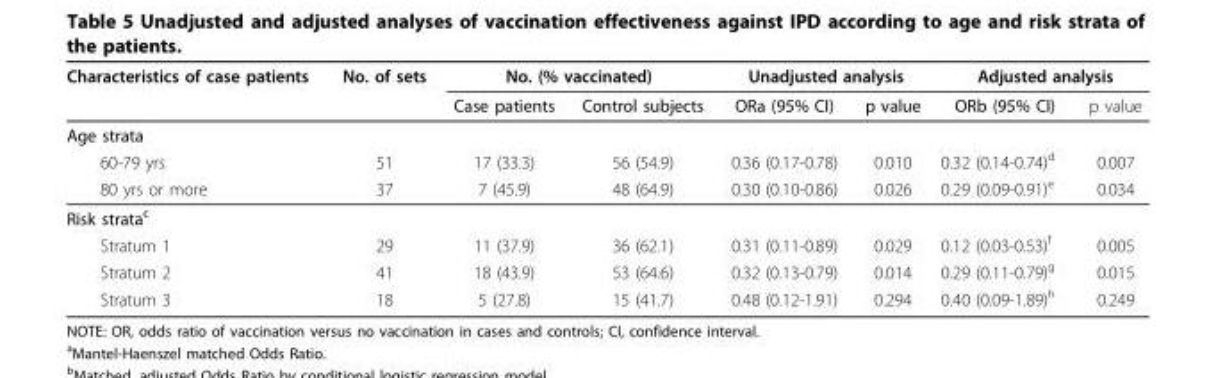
<table><thead><tr><td rowspan="2">Characteristics of case patients</td><td rowspan="2">No. of sets</td><td colspan="2">No. (% vaccinated)</td><td colspan="2">Unadjusted analysis</td><td colspan="2">Adjusted analysis</td></tr><tr><td>Case patients</td><td>Control subjects</td><td>ORa (95% CI)</td><td>p value</td><td>ORb (95% CI)</td><td>p value</td></tr></thead><tbody><tr><td colspan="8">Age strata</td></tr><tr><td>60-79 yrs</td><td>51</td><td>17 (33.3)</td><td>56 (54.9)</td><td>0.36 (0.17-0.78)</td><td>0.010</td><td>0.32 (0.14-0.74)<sup>d</sup></td><td>0.007</td></tr><tr><td>80 yrs or more</td><td>37</td><td>7 (45.9)</td><td>48 (64.9)</td><td>0.30 (0.10-0.86)</td><td>0.026</td><td>0.29 (0.09-0.91)<sup>e</sup></td><td>0.034</td></tr><tr><td colspan="8">Risk strata<sup>c</sup></td></tr><tr><td>Stratum 1</td><td>29</td><td>11 (37.9)</td><td>36 (62.1)</td><td>0.31 (0.11-0.89)</td><td>0.029</td><td>0.12 (0.03-0.53)<sup>f</sup></td><td>0.005</td></tr><tr><td>Stratum 2</td><td>41</td><td>18 (43.9)</td><td>53 (64.6)</td><td>0.32 (0.13-0.79)</td><td>0.014</td><td>0.29 (0.11-0.79)<sup>g</sup></td><td>0.015</td></tr><tr><td>Stratum 3</td><td>18</td><td>5 (27.8)</td><td>15 (41.7)</td><td>0.48 (0.12-1.91)</td><td>0.294</td><td>0.40 (0.09-1.89)<sup>h</sup></td><td>0.249</td></tr></tbody></table>